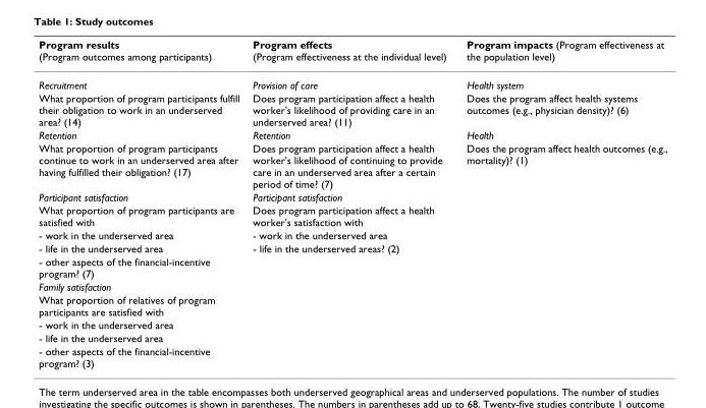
<table><thead><tr><td>Program results (Program outcomes among participants)</td><td>Program effects (Program effectiveness at the individual level)</td><td>Program impacts (Program effectiveness at the population level)</td></tr></thead><tbody><tr><td>Recruitment</td><td>Provision of care</td><td>Health system</td></tr><tr><td>What proportion of program participants fulfill their obligation to work in an underserved area? (14)</td><td>Does program participation affect a health worker&#x27;s likelihood of providing care in an underserved area? (11)</td><td>Does the program affect health systems outcomes (e.g., physician density)? (6)</td></tr><tr><td>Retention</td><td>Retention</td><td>Health</td></tr><tr><td>What proportion of program participants continue to work in an underserved area after having fulfilled their obligation? (17)</td><td>Does program participation affect a health worker&#x27;s likelihood of continuing to provide care in an underserved area after a certain period of time? (7)</td><td>Does the program affect health outcomes (e.g., mortality)? (1)</td></tr><tr><td>Participant satisfaction</td><td>Participant satisfaction</td><td></td></tr><tr><td>What proportion of program participants are satisfied with</td><td>Does program participation affect a health worker&#x27;s satisfaction with</td><td></td></tr><tr><td>- work in the underserved area</td><td>- work in the underserved area</td><td></td></tr><tr><td>- life in the underserved area</td><td>- life in the underserved areas? (2)</td><td></td></tr><tr><td colspan="3">- other aspects of the financial-incentive program? (7)</td></tr><tr><td colspan="3">Family satisfaction</td></tr><tr><td colspan="3">What proportion of relatives of program participants are satisfied with</td></tr><tr><td colspan="3">- work in the underserved area</td></tr><tr><td colspan="3">- life in the underserved area</td></tr><tr><td>- other aspects of the financial-incentive program? (3)</td><td></td><td></td></tr></tbody></table>